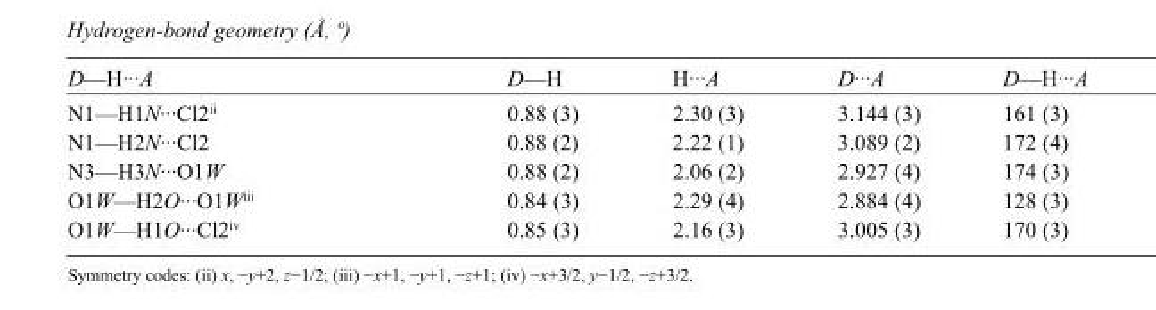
<table><tbody><tr><td>D—H···A</td><td>D—H</td><td>H···A</td><td>D···A</td><td>D—H···A</td></tr><tr><td>N1—H1N···Cl2<sup>ii</sup></td><td>0.88 (3)</td><td>2.30 (3)</td><td>3.144 (3)</td><td>161 (3)</td></tr><tr><td>N1—H2N···Cl2</td><td>0.88 (2)</td><td>2.22 (1)</td><td>3.089 (2)</td><td>172 (4)</td></tr><tr><td>N3—H3N···O1W</td><td>0.88 (2)</td><td>2.06 (2)</td><td>2.927 (4)</td><td>174 (3)</td></tr><tr><td>O1W—H2O···O1W<sup>iii</sup></td><td>0.84 (3)</td><td>2.29 (4)</td><td>2.884 (4)</td><td>128 (3)</td></tr><tr><td>O1W—H1O···Cl2<sup>iv</sup></td><td>0.85 (3)</td><td>2.16 (3)</td><td>3.005 (3)</td><td>170 (3)</td></tr></tbody></table>